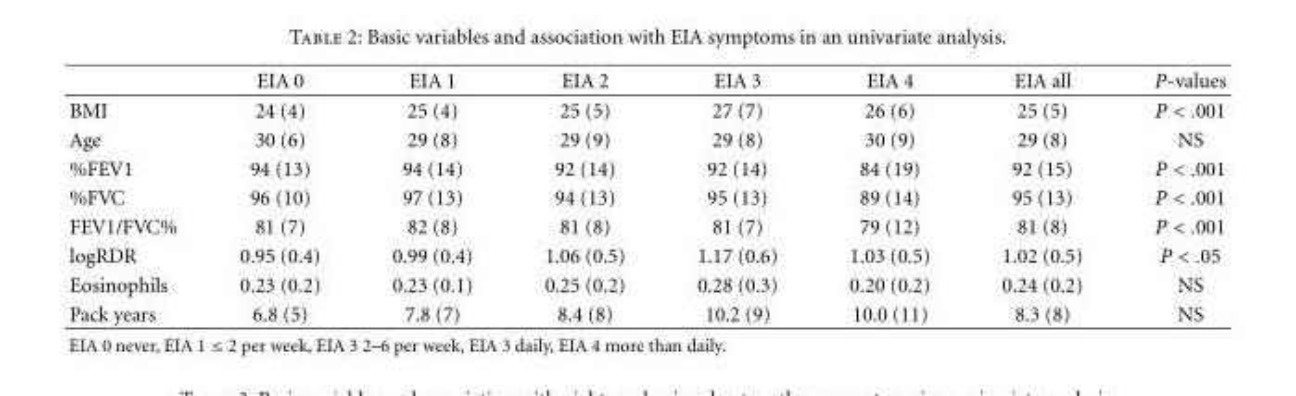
<table><thead><tr><td></td><td>EIA 0</td><td>EIA 1</td><td>EIA 2</td><td>EIA 3</td><td>EIA 4</td><td>EIA all</td><td>P-values</td></tr></thead><tbody><tr><td>BMI</td><td>24 (4)</td><td>25 (4)</td><td>25 (5)</td><td>27 (7)</td><td>26 (6)</td><td>25 (5)</td><td>P &lt; .001</td></tr><tr><td>Age</td><td>30 (6)</td><td>29 (8)</td><td>29 (9)</td><td>29 (8)</td><td>30 (9)</td><td>29 (8)</td><td>NS</td></tr><tr><td>%FEV1</td><td>94 (13)</td><td>94 (14)</td><td>92 (14)</td><td>92 (14)</td><td>84 (19)</td><td>92 (15)</td><td>P &lt; .001</td></tr><tr><td>%FVC</td><td>96 (10)</td><td>97 (13)</td><td>94 (13)</td><td>95 (13)</td><td>89 (14)</td><td>95 (13)</td><td>P &lt; .001</td></tr><tr><td>FEV1/FVC%</td><td>81 (7)</td><td>82 (8)</td><td>81 (8)</td><td>81 (7)</td><td>79 (12)</td><td>81 (8)</td><td>P &lt; .001</td></tr><tr><td>logRDR</td><td>0.95 (0.4)</td><td>0.99 (0.4)</td><td>1.06 (0.5)</td><td>1.17 (0.6)</td><td>1.03 (0.5)</td><td>1.02 (0.5)</td><td>P &lt; .05</td></tr><tr><td>Eosinophils</td><td>0.23 (0.2)</td><td>0.23 (0.1)</td><td>0.25 (0.2)</td><td>0.28 (0.3)</td><td>0.20 (0.2)</td><td>0.24 (0.2)</td><td>NS</td></tr><tr><td>Pack years</td><td>6.8 (5)</td><td>7.8 (7)</td><td>8.4 (8)</td><td>10.2 (9)</td><td>10.0 (11)</td><td>8.3 (8)</td><td>NS</td></tr></tbody></table>